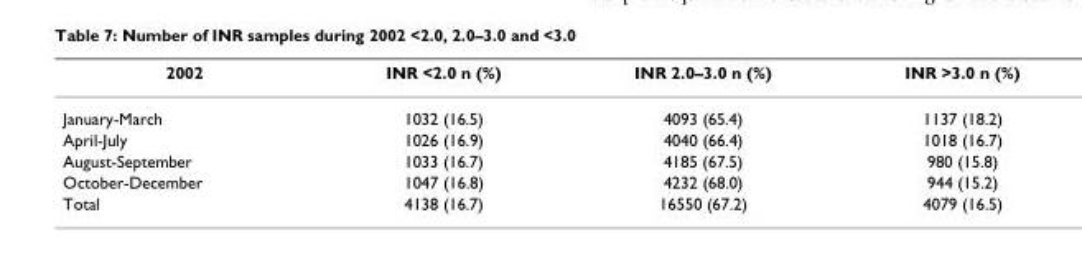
<table><thead><tr><td>2002</td><td>INR &lt;2.0 n (%)</td><td>INR 2.0–3.0 n (%)</td><td>INR &gt;3.0 n (%)</td></tr></thead><tbody><tr><td>January-March</td><td>1032 (16.5)</td><td>4093 (65.4)</td><td>1137 (18.2)</td></tr><tr><td>April-July</td><td>1026 (16.9)</td><td>4040 (66.4)</td><td>1018 (16.7)</td></tr><tr><td>August-September</td><td>1033 (16.7)</td><td>4185 (67.5)</td><td>980 (15.8)</td></tr><tr><td>October-December</td><td>1047 (16.8)</td><td>4232 (68.0)</td><td>944 (15.2)</td></tr><tr><td>Total</td><td>4138 (16.7)</td><td>16550 (67.2)</td><td>4079 (16.5)</td></tr></tbody></table>